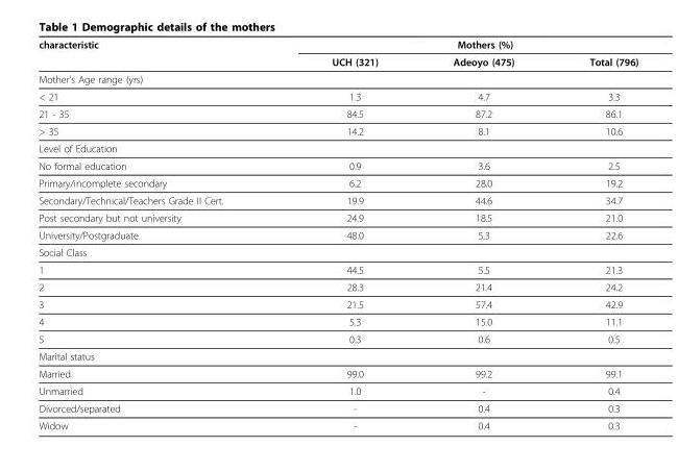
<table><thead><tr><td rowspan="2">characteristic</td><td colspan="3">Mothers (%)</td></tr><tr><td>UCH (321)</td><td>Adeoyo (475)</td><td>Total (796)</td></tr></thead><tbody><tr><td colspan="4">Mother’s Age range (yrs)</td></tr><tr><td>&lt; 21</td><td>1.3</td><td>4.7</td><td>3.3</td></tr><tr><td>21 - 35</td><td>84.5</td><td>87.2</td><td>86.1</td></tr><tr><td>&gt; 35</td><td>14.2</td><td>8.1</td><td>10.6</td></tr><tr><td colspan="4">Level of Education</td></tr><tr><td>No formal education</td><td>0.9</td><td>3.6</td><td>2.5</td></tr><tr><td>Primary/incomplete secondary</td><td>6.2</td><td>28.0</td><td>19.2</td></tr><tr><td>Secondary/Technical/Teachers Grade II Cert.</td><td>19.9</td><td>44.6</td><td>34.7</td></tr><tr><td>Post secondary but not university</td><td>24.9</td><td>18.5</td><td>21.0</td></tr><tr><td>University/Postgraduate</td><td>48.0</td><td>5.3</td><td>22.6</td></tr><tr><td colspan="4">Social Class</td></tr><tr><td>1</td><td>44.5</td><td>5.5</td><td>21.3</td></tr><tr><td>2</td><td>28.3</td><td>21.4</td><td>24.2</td></tr><tr><td>3</td><td>21.5</td><td>57.4</td><td>42.9</td></tr><tr><td>4</td><td>5.3</td><td>15.0</td><td>11.1</td></tr><tr><td>5</td><td>0.3</td><td>0.6</td><td>0.5</td></tr><tr><td colspan="4">Marital status</td></tr><tr><td>Married</td><td>99.0</td><td>99.2</td><td>99.1</td></tr><tr><td>Unmarried</td><td>1.0</td><td>-</td><td>0.4</td></tr><tr><td>Divorced/separated</td><td>-</td><td>0.4</td><td>0.3</td></tr><tr><td>Widow</td><td>-</td><td>0.4</td><td>0.3</td></tr></tbody></table>